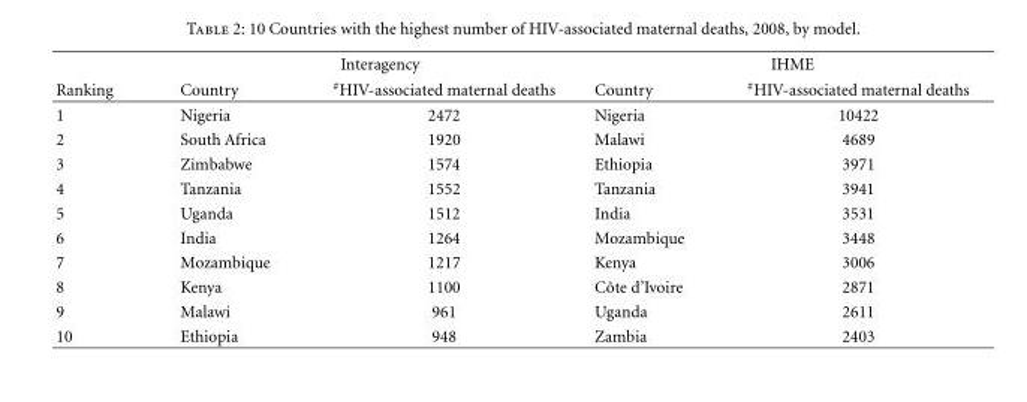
<table><thead><tr><td rowspan="2">Ranking</td><td colspan="2">Interagency</td><td colspan="2">IHME</td></tr><tr><td>Country</td><td><sup>#</sup>HIV-associated maternal deaths</td><td>Country</td><td><sup>#</sup>HIV-associated maternal deaths</td></tr></thead><tbody><tr><td>1</td><td>Nigeria</td><td>2472</td><td>Nigeria</td><td>10422</td></tr><tr><td>2</td><td>South Africa</td><td>1920</td><td>Malawi</td><td>4689</td></tr><tr><td>3</td><td>Zimbabwe</td><td>1574</td><td>Ethiopia</td><td>3971</td></tr><tr><td>4</td><td>Tanzania</td><td>1552</td><td>Tanzania</td><td>3941</td></tr><tr><td>5</td><td>Uganda</td><td>1512</td><td>India</td><td>3531</td></tr><tr><td>6</td><td>India</td><td>1264</td><td>Mozambique</td><td>3448</td></tr><tr><td>7</td><td>Mozambique</td><td>1217</td><td>Kenya</td><td>3006</td></tr><tr><td>8</td><td>Kenya</td><td>1100</td><td>Cˆote d’Ivoire</td><td>2871</td></tr><tr><td>9</td><td>Malawi</td><td>961</td><td>Uganda</td><td>2611</td></tr><tr><td>10</td><td>Ethiopia</td><td>948</td><td>Zambia</td><td>2403</td></tr></tbody></table>